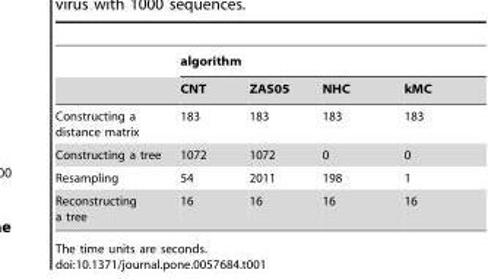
<table><thead><tr><td rowspan="2"></td><td colspan="4">algorithm</td></tr><tr><td>CNT</td><td>ZAS05</td><td>NHC</td><td>kMC</td></tr></thead><tbody><tr><td>Constructing a distance matrix</td><td>183</td><td>183</td><td>183</td><td>183</td></tr><tr><td>Constructing a tree</td><td>1072</td><td>1072</td><td>0</td><td>0</td></tr><tr><td>Resampling</td><td>54</td><td>2011</td><td>198</td><td>1</td></tr><tr><td>Reconstructing a tree</td><td>16</td><td>16</td><td>16</td><td>16</td></tr></tbody></table>